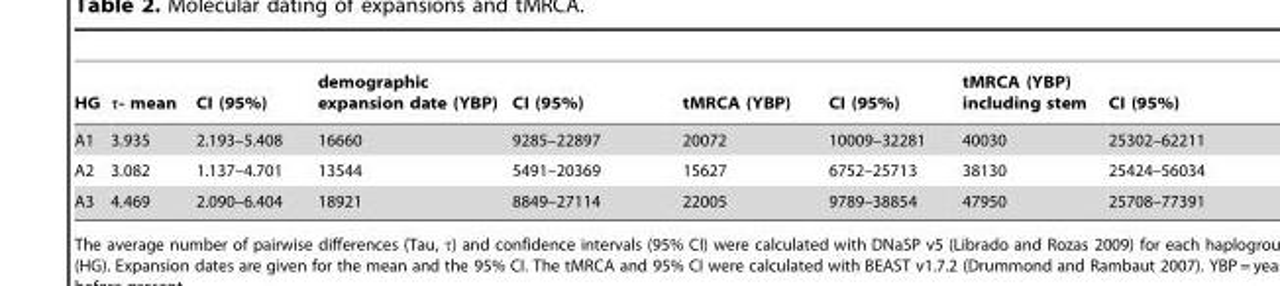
<table><thead><tr><td>HG</td><td>τ- mean</td><td>CI (95%)</td><td>demographic expansion date (YBP)</td><td>CI (95%)</td><td>tMRCA (YBP)</td><td>CI (95%)</td><td>tMRCA (YBP) including stem</td><td>CI (95%)</td></tr></thead><tbody><tr><td>A1</td><td>3.935</td><td>2.193–5.408</td><td>16660</td><td>9285–22897</td><td>20072</td><td>10009–32281</td><td>40030</td><td>25302–62211</td></tr><tr><td>A2</td><td>3.082</td><td>1.137–4.701</td><td>13544</td><td>5491–20369</td><td>15627</td><td>6752–25713</td><td>38130</td><td>25424–56034</td></tr><tr><td>A3</td><td>4.469</td><td>2.090–6.404</td><td>18921</td><td>8849–27114</td><td>22005</td><td>9789–38854</td><td>47950</td><td>25708–77391</td></tr></tbody></table>